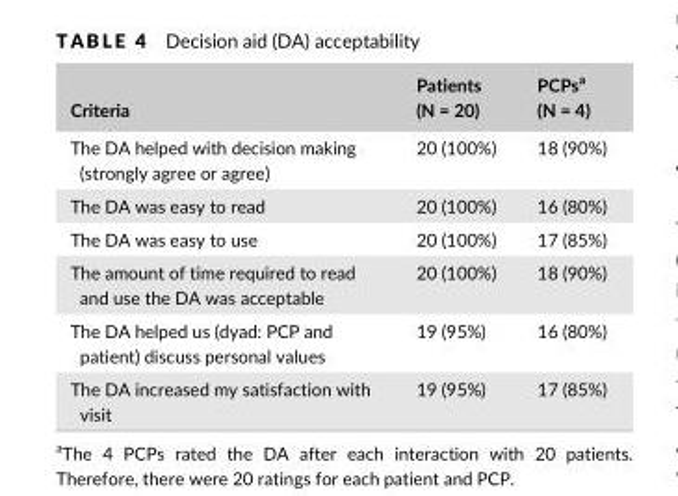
<table><thead><tr><td>Criteria</td><td>Patients (N = 20)</td><td>PCPs<sup>a</sup> (N = 4)</td></tr></thead><tbody><tr><td>The DA helped with decision making (strongly agree or agree)</td><td>20 (100%)</td><td>18 (90%)</td></tr><tr><td>The DA was easy to read</td><td>20 (100%)</td><td>16 (80%)</td></tr><tr><td>The DA was easy to use</td><td>20 (100%)</td><td>17 (85%)</td></tr><tr><td>The amount of time required to read and use the DA was acceptable</td><td>20 (100%)</td><td>18 (90%)</td></tr><tr><td>The DA helped us (dyad: PCP and patient) discuss personal values</td><td>19 (95%)</td><td>16 (80%)</td></tr><tr><td>The DA increased my satisfaction with visit</td><td>19 (95%)</td><td>17 (85%)</td></tr></tbody></table>